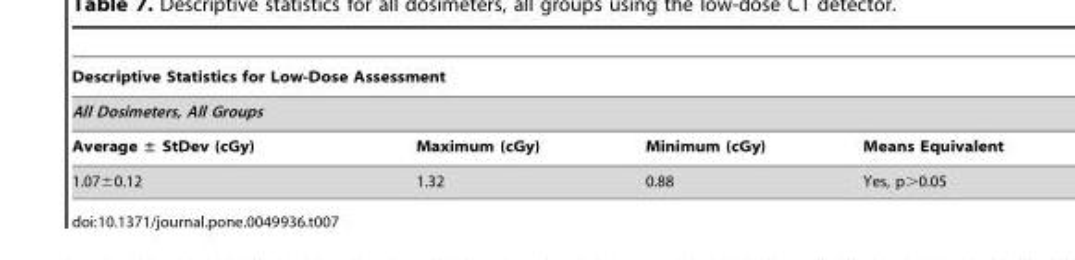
<table><thead><tr><td rowspan="2" colspan="4">Descriptive Statistics for Low-Dose Assessment All Dosimeters, All Groups</td></tr><tr></tr><tr><td>Average ± StDev (cGy)</td><td>Maximum (cGy)</td><td>Minimum (cGy)</td><td>Means Equivalent</td></tr></thead><tbody><tr><td>1.07±0.12</td><td>1.32</td><td>0.88</td><td>Yes, p&gt;0.05</td></tr></tbody></table>